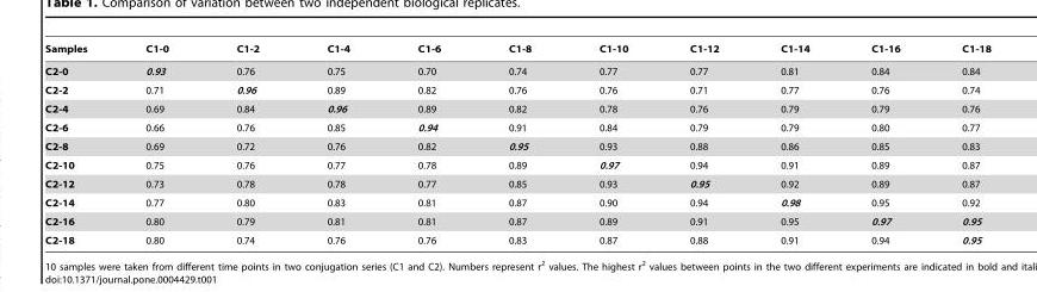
<table><thead><tr><td>Samples</td><td>C1-0</td><td>C1-2</td><td>C1-4</td><td>C1-6</td><td>C1-8</td><td>C1-10</td><td>C1-12</td><td>C1-14</td><td>C1-16</td><td>C1-18</td></tr></thead><tbody><tr><td>C2-0</td><td>0.93</td><td>0.76</td><td>0.75</td><td>0.70</td><td>0.74</td><td>0.77</td><td>0.77</td><td>0.81</td><td>0.84</td><td>0.84</td></tr><tr><td>C2-2</td><td>0.71</td><td>0.96</td><td>0.89</td><td>0.82</td><td>0.76</td><td>0.76</td><td>0.71</td><td>0.77</td><td>0.76</td><td>0.74</td></tr><tr><td>C2-4</td><td>0.69</td><td>0.84</td><td>0.96</td><td>0.89</td><td>0.82</td><td>0.78</td><td>0.76</td><td>0.79</td><td>0.79</td><td>0.76</td></tr><tr><td>C2-6</td><td>0.66</td><td>0.76</td><td>0.85</td><td>0.94</td><td>0.91</td><td>0.84</td><td>0.79</td><td>0.79</td><td>0.80</td><td>0.77</td></tr><tr><td>C2-8</td><td>0.69</td><td>0.72</td><td>0.76</td><td>0.82</td><td>0.95</td><td>0.93</td><td>0.88</td><td>0.86</td><td>0.85</td><td>0.83</td></tr><tr><td>C2-10</td><td>0.75</td><td>0.76</td><td>0.77</td><td>0.78</td><td>0.89</td><td>0.97</td><td>0.94</td><td>0.91</td><td>0.89</td><td>0.87</td></tr><tr><td>C2-12</td><td>0.73</td><td>0.78</td><td>0.78</td><td>0.77</td><td>0.85</td><td>0.93</td><td>0.95</td><td>0.92</td><td>0.89</td><td>0.87</td></tr><tr><td>C2-14</td><td>0.77</td><td>0.80</td><td>0.83</td><td>0.81</td><td>0.87</td><td>0.90</td><td>0.94</td><td>0.98</td><td>0.95</td><td>0.92</td></tr><tr><td>C2-16</td><td>0.80</td><td>0.79</td><td>0.81</td><td>0.81</td><td>0.87</td><td>0.89</td><td>0.91</td><td>0.95</td><td>0.97</td><td>0.95</td></tr><tr><td>C2-18</td><td>0.80</td><td>0.74</td><td>0.76</td><td>0.76</td><td>0.83</td><td>0.87</td><td>0.88</td><td>0.91</td><td>0.94</td><td>0.95</td></tr></tbody></table>